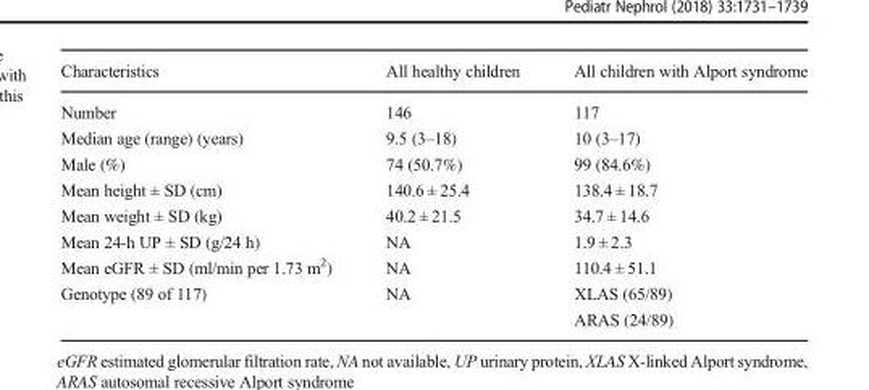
<table><thead><tr><td>Characteristics</td><td>All healthy children</td><td>All children with Alport syndrome</td></tr></thead><tbody><tr><td>Number</td><td>146</td><td>117</td></tr><tr><td>Median age (range) (years)</td><td>9.5 (3–18)</td><td>10 (3–17)</td></tr><tr><td>Male (%)</td><td>74 (50.7%)</td><td>99 (84.6%)</td></tr><tr><td>Mean height ± SD (cm)</td><td>140.6 ± 25.4</td><td>138.4 ± 18.7</td></tr><tr><td>Mean weight ± SD (kg)</td><td>40.2 ± 21.5</td><td>34.7 ± 14.6</td></tr><tr><td>Mean 24-h UP ± SD (g/24 h)</td><td>NA</td><td>1.9 ± 2.3</td></tr><tr><td>Mean eGFR ± SD (ml/min per 1.73 m<sup>2</sup>)</td><td>NA</td><td>110.4 ± 51.1</td></tr><tr><td>Genotype (89 of 117)</td><td>NA</td><td>XLAS (65/89) ARAS (24/89)</td></tr></tbody></table>